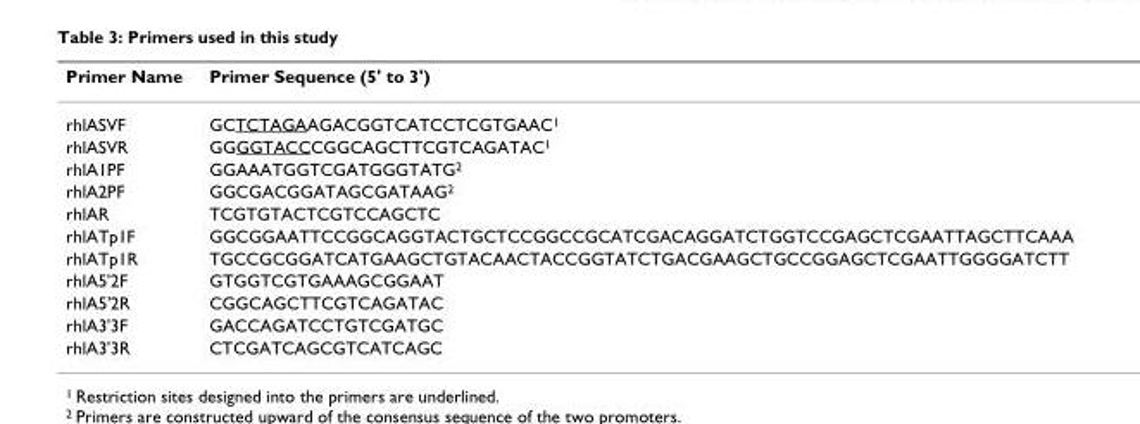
<table><thead><tr><td>Primer Name</td><td>Primer Sequence (5&#x27; to 3&#x27;)</td></tr></thead><tbody><tr><td>rhlASVF</td><td>GCTCTAGAAGACGGTCATCCTCGTGAAC<sup>1</sup></td></tr><tr><td>rhlASVR</td><td>GGGGTACCCGGCAGCTTCGTCAGATAC<sup>1</sup></td></tr><tr><td>rhlA1PF</td><td>GGAAATGGTCGATGGGTATG<sup>2</sup></td></tr><tr><td>rhlA2PF</td><td>GGCGACGGATAGCGATAAG<sup>2</sup></td></tr><tr><td>rhlAR</td><td>TCGTGTACTCGTCCAGCTC</td></tr><tr><td>rhlATp1F</td><td>GGCGGAATTCCGGCAGGTACTGCTCCGGCCGCATCGACAGGATCTGGTCCGAGCTCGAATTAGCTTCAAA</td></tr><tr><td>rhlATp1R</td><td>TGCCGCGGATCATGAAGCTGTACAACTACCGGTATCTGACGAAGCTGCCGGAGCTCGAATTGGGGATCTT</td></tr><tr><td>rhlA5&#x27;2F</td><td>GTGGTCGTGAAAGCGGAAT</td></tr><tr><td>rhlA5&#x27;2R</td><td>CGGCAGCTTCGTCAGATAC</td></tr><tr><td>rhlA3&#x27;3F</td><td>GACCAGATCCTGTCGATGC</td></tr><tr><td>rhlA3&#x27;3R</td><td>CTCGATCAGCGTCATCAGC</td></tr></tbody></table>